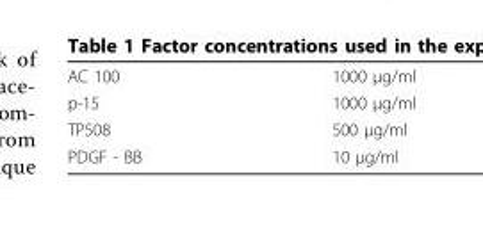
<table><tbody><tr><td>AC 100</td><td>1000 μg/ml</td></tr><tr><td>p-15</td><td>1000 μg/ml</td></tr><tr><td>TP508</td><td>500 μg/ml</td></tr><tr><td>PDGF - BB</td><td>10 μg/ml</td></tr></tbody></table>